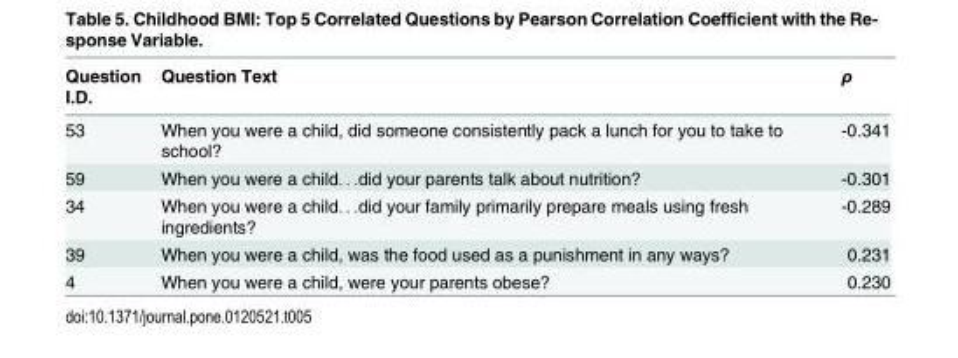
<table><thead><tr><td>Question I.D.</td><td>Question Text</td><td>ρ</td></tr></thead><tbody><tr><td>53</td><td>When you were a child, did someone consistently pack a lunch for you to take to school?</td><td>-0.341</td></tr><tr><td>59</td><td>When you were a child. . .did your parents talk about nutrition?</td><td>-0.301</td></tr><tr><td>34</td><td>When you were a child. . .did your family primarily prepare meals using fresh ingredients?</td><td>-0.289</td></tr><tr><td>39</td><td>When you were a child, was the food used as a punishment in any ways?</td><td>0.231</td></tr><tr><td>4</td><td>When you were a child, were your parents obese?</td><td>0.230</td></tr></tbody></table>